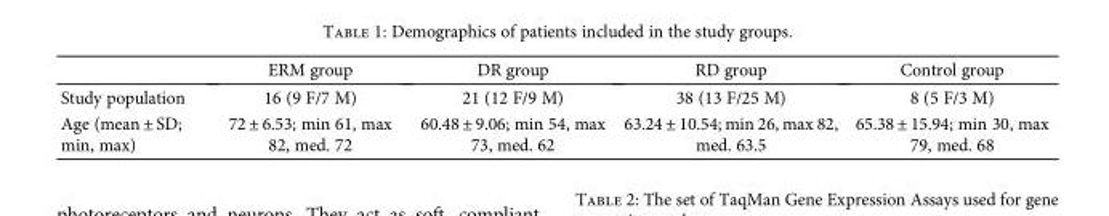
<table><thead><tr><td></td><td>ERM group</td><td>DR group</td><td>RD group</td><td>Control group</td></tr></thead><tbody><tr><td>Study population</td><td>16 (9 F/7 M)</td><td>21 (12 F/9 M)</td><td>38 (13 F/25 M)</td><td>8 (5 F/3 M)</td></tr><tr><td>Age (mean ± SD; min, max)</td><td>72 ± 6.53; min 61, max 82, med. 72</td><td>60.48 ± 9.06; min 54, max 73, med. 62</td><td>63.24 ± 10.54; min 26, max 82, med. 63.5</td><td>65.38 ± 15.94; min 30, max 79, med. 68</td></tr></tbody></table>